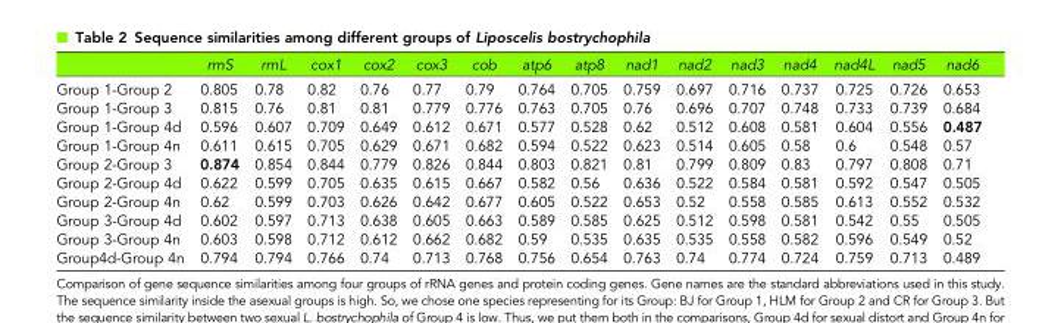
<table><thead><tr><td></td><td>rrnS</td><td>rrnL</td><td>cox1</td><td>cox2</td><td>cox3</td><td>cob</td><td>atp6</td><td>atp8</td><td>nad1</td><td>nad2</td><td>nad3</td><td>nad4</td><td>nad4L</td><td>nad5</td><td>nad6</td></tr></thead><tbody><tr><td>Group 1-Group 2</td><td>0.805</td><td>0.78</td><td>0.82</td><td>0.76</td><td>0.77</td><td>0.79</td><td>0.764</td><td>0.705</td><td>0.759</td><td>0.697</td><td>0.716</td><td>0.737</td><td>0.725</td><td>0.726</td><td>0.653</td></tr><tr><td>Group 1-Group 3</td><td>0.815</td><td>0.76</td><td>0.81</td><td>0.81</td><td>0.779</td><td>0.776</td><td>0.763</td><td>0.705</td><td>0.76</td><td>0.696</td><td>0.707</td><td>0.748</td><td>0.733</td><td>0.739</td><td>0.684</td></tr><tr><td>Group 1-Group 4d</td><td>0.596</td><td>0.607</td><td>0.709</td><td>0.649</td><td>0.612</td><td>0.671</td><td>0.577</td><td>0.528</td><td>0.62</td><td>0.512</td><td>0.608</td><td>0.581</td><td>0.604</td><td>0.556</td><td>0.487</td></tr><tr><td>Group 1-Group 4n</td><td>0.611</td><td>0.615</td><td>0.705</td><td>0.629</td><td>0.671</td><td>0.682</td><td>0.594</td><td>0.522</td><td>0.623</td><td>0.514</td><td>0.605</td><td>0.58</td><td>0.6</td><td>0.548</td><td>0.57</td></tr><tr><td>Group 2-Group 3</td><td>0.874</td><td>0.854</td><td>0.844</td><td>0.779</td><td>0.826</td><td>0.844</td><td>0.803</td><td>0.821</td><td>0.81</td><td>0.799</td><td>0.809</td><td>0.83</td><td>0.797</td><td>0.808</td><td>0.71</td></tr><tr><td>Group 2-Group 4d</td><td>0.622</td><td>0.599</td><td>0.705</td><td>0.635</td><td>0.615</td><td>0.667</td><td>0.582</td><td>0.56</td><td>0.636</td><td>0.522</td><td>0.584</td><td>0.581</td><td>0.592</td><td>0.547</td><td>0.505</td></tr><tr><td>Group 2-Group 4n</td><td>0.62</td><td>0.599</td><td>0.703</td><td>0.626</td><td>0.642</td><td>0.677</td><td>0.605</td><td>0.522</td><td>0.653</td><td>0.52</td><td>0.558</td><td>0.585</td><td>0.613</td><td>0.552</td><td>0.532</td></tr><tr><td>Group 3-Group 4d</td><td>0.602</td><td>0.597</td><td>0.713</td><td>0.638</td><td>0.605</td><td>0.663</td><td>0.589</td><td>0.585</td><td>0.625</td><td>0.512</td><td>0.598</td><td>0.581</td><td>0.542</td><td>0.55</td><td>0.505</td></tr><tr><td>Group 3-Group 4n</td><td>0.603</td><td>0.598</td><td>0.712</td><td>0.612</td><td>0.662</td><td>0.682</td><td>0.59</td><td>0.535</td><td>0.635</td><td>0.535</td><td>0.558</td><td>0.582</td><td>0.596</td><td>0.549</td><td>0.52</td></tr><tr><td>Group4d-Group 4n</td><td>0.794</td><td>0.794</td><td>0.766</td><td>0.74</td><td>0.713</td><td>0.768</td><td>0.756</td><td>0.654</td><td>0.763</td><td>0.74</td><td>0.774</td><td>0.724</td><td>0.759</td><td>0.713</td><td>0.489</td></tr></tbody></table>